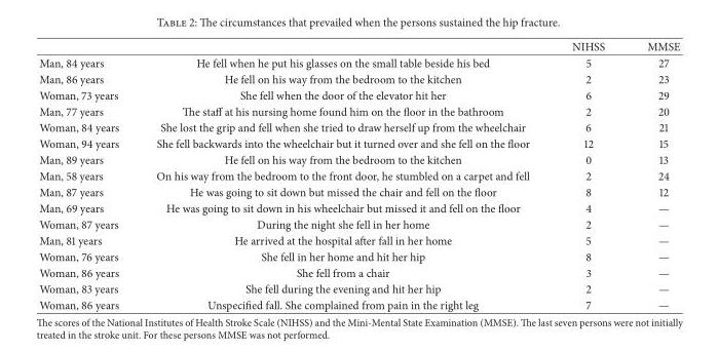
<table><thead><tr><td></td><td></td><td>NIHSS</td><td>MMSE</td></tr></thead><tbody><tr><td>Man, 84 years</td><td>He fell when he put his glasses on the small table beside his bed</td><td>5</td><td>27</td></tr><tr><td>Man, 86 years</td><td>He fell on his way from the bedroom to the kitchen</td><td>2</td><td>23</td></tr><tr><td>Woman, 73 years</td><td>She fell when the door of the elevator hit her</td><td>6</td><td>29</td></tr><tr><td>Man, 77 years</td><td>The staff at his nursing home found him on the floor in the bathroom</td><td>2</td><td>20</td></tr><tr><td>Woman, 84 years</td><td>She lost the grip and fell when she tried to draw herself up from the wheelchair</td><td>6</td><td>21</td></tr><tr><td>Woman, 94 years</td><td>She fell backwards into the wheelchair but it turned over and she fell on the floor</td><td>12</td><td>15</td></tr><tr><td>Man, 89 years</td><td>He fell on his way from the bedroom to the kitchen</td><td>0</td><td>13</td></tr><tr><td>Man, 58 years</td><td>On his way from the bedroom to the front door, he stumbled on a carpet and fell</td><td>2</td><td>24</td></tr><tr><td>Man, 87 years</td><td>He was going to sit down but missed the chair and fell on the floor</td><td>8</td><td>12</td></tr><tr><td>Man, 69 years</td><td>He was going to sit down in his wheelchair but missed it and fell on the floor</td><td>4</td><td>—</td></tr><tr><td>Woman, 87 years</td><td>During the night she fell in her home</td><td>2</td><td>—</td></tr><tr><td>Man, 81 years</td><td>He arrived at the hospital after fall in her home</td><td>5</td><td>—</td></tr><tr><td>Woman, 76 years</td><td>She fell in her home and hit her hip</td><td>8</td><td>—</td></tr><tr><td>Woman, 86 years</td><td>She fell from a chair</td><td>3</td><td>—</td></tr><tr><td>Woman, 83 years</td><td>She fell during the evening and hit her hip</td><td>2</td><td>—</td></tr><tr><td>Woman, 86 years</td><td>Unspecified fall. She complained from pain in the right leg</td><td>7</td><td>—</td></tr></tbody></table>